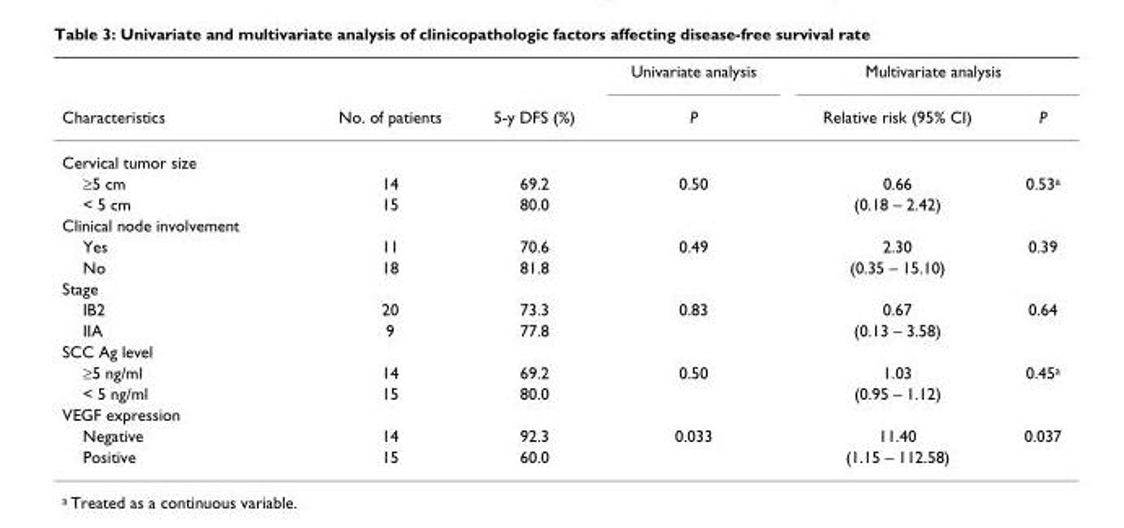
<table><thead><tr><td rowspan="2">Characteristics</td><td rowspan="2">No. of patients</td><td rowspan="2">5-y DFS (%)</td><td rowspan="2">Univariate analysis P</td><td colspan="2">Multivariate analysis</td></tr><tr><td>Relative risk (95% CI)</td><td>P</td></tr></thead><tbody><tr><td colspan="6">Cervical tumor size</td></tr><tr><td>≥5 cm</td><td>14</td><td>69.2</td><td>0.50</td><td>0.66</td><td>0.53<sup>a</sup></td></tr><tr><td>&lt; 5 cm</td><td>15</td><td>80.0</td><td></td><td>(0.18 – 2.42)</td><td></td></tr><tr><td colspan="6">Clinical node involvement</td></tr><tr><td>Yes</td><td>11</td><td>70.6</td><td>0.49</td><td>2.30</td><td>0.39</td></tr><tr><td>No</td><td>18</td><td>81.8</td><td></td><td>(0.35 – 15.10)</td><td></td></tr><tr><td colspan="6">Stage</td></tr><tr><td>IB2</td><td>20</td><td>73.3</td><td>0.83</td><td>0.67</td><td>0.64</td></tr><tr><td>IIA</td><td>9</td><td>77.8</td><td></td><td>(0.13 – 3.58)</td><td></td></tr><tr><td colspan="6">SCC Ag level</td></tr><tr><td>≥5 ng/ml</td><td>14</td><td>69.2</td><td>0.50</td><td>1.03</td><td>0.45<sup>a</sup></td></tr><tr><td>&lt; 5 ng/ml</td><td>15</td><td>80.0</td><td></td><td>(0.95 – 1.12)</td><td></td></tr><tr><td colspan="6">VEGF expression</td></tr><tr><td>Negative</td><td>14</td><td>92.3</td><td>0.033</td><td>11.40</td><td>0.037</td></tr><tr><td>Positive</td><td>15</td><td>60.0</td><td></td><td>(1.15 – 112.58)</td><td></td></tr></tbody></table>